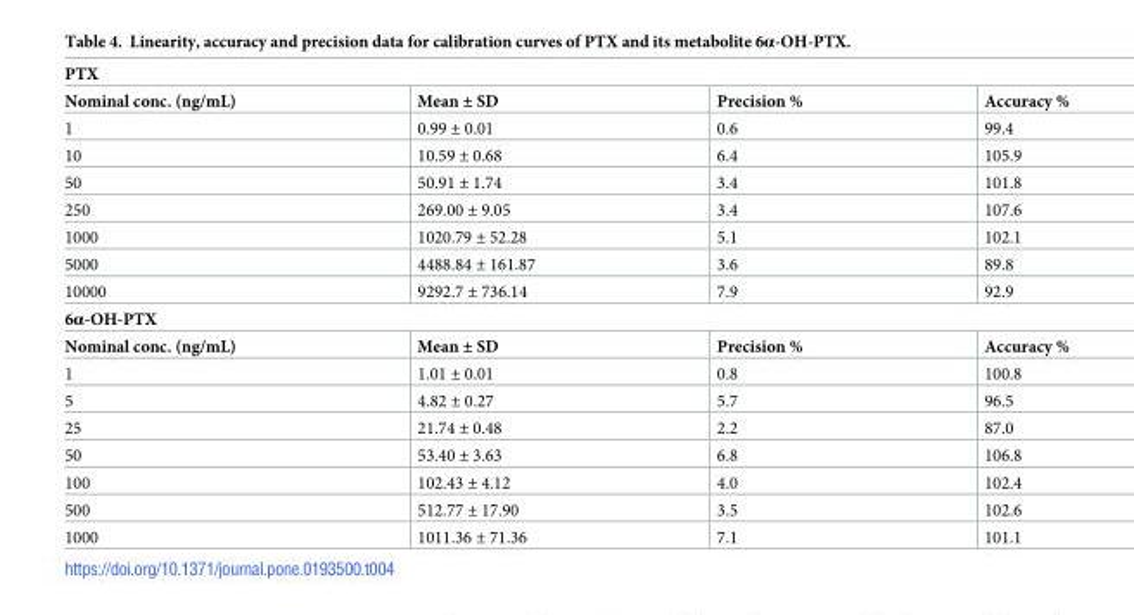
<table><tbody><tr><td colspan="4">PTX</td></tr><tr><td>Nominal conc. (ng/mL)</td><td>Mean ± SD</td><td>Precision %</td><td>Accuracy %</td></tr><tr><td>1</td><td>0.99 ± 0.01</td><td>0.6</td><td>99.4</td></tr><tr><td>10</td><td>10.59 ± 0.68</td><td>6.4</td><td>105.9</td></tr><tr><td>50</td><td>50.91 ± 1.74</td><td>3.4</td><td>101.8</td></tr><tr><td>250</td><td>269.00 ± 9.05</td><td>3.4</td><td>107.6</td></tr><tr><td>1000</td><td>1020.79 ± 52.28</td><td>5.1</td><td>102.1</td></tr><tr><td>5000</td><td>4488.84 ± 161.87</td><td>3.6</td><td>89.8</td></tr><tr><td>10000</td><td>9292.7 ± 736.14</td><td>7.9</td><td>92.9</td></tr><tr><td colspan="4">6α-OH-PTX</td></tr><tr><td>Nominal conc. (ng/mL)</td><td>Mean ± SD</td><td>Precision %</td><td>Accuracy %</td></tr><tr><td>1</td><td>1.01 ± 0.01</td><td>0.8</td><td>100.8</td></tr><tr><td>5</td><td>4.82 ± 0.27</td><td>5.7</td><td>96.5</td></tr><tr><td>25</td><td>21.74 ± 0.48</td><td>2.2</td><td>87.0</td></tr><tr><td>50</td><td>53.40 ± 3.63</td><td>6.8</td><td>106.8</td></tr><tr><td>100</td><td>102.43 ± 4.12</td><td>4.0</td><td>102.4</td></tr><tr><td>500</td><td>512.77 ± 17.90</td><td>3.5</td><td>102.6</td></tr><tr><td>1000</td><td>1011.36 ± 71.36</td><td>7.1</td><td>101.1</td></tr></tbody></table>